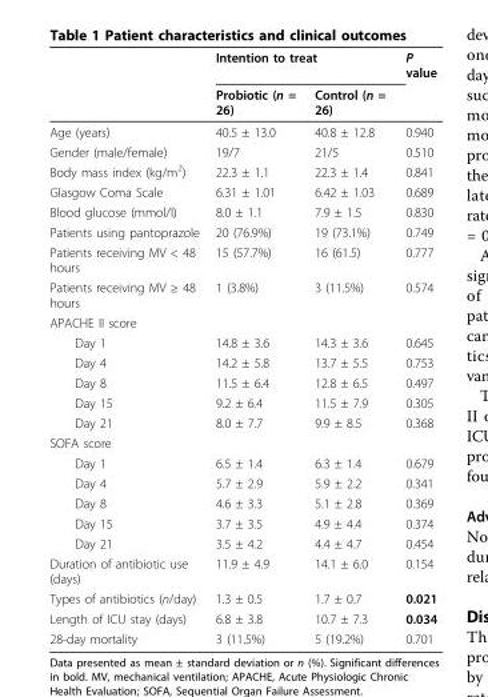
<table><thead><tr><td rowspan="2"></td><td colspan="2">Intention to treat</td><td rowspan="2">P value</td></tr><tr><td>Probiotic (n = 26)</td><td>Control (n = 26)</td></tr></thead><tbody><tr><td>Age (years)</td><td>40.5 ± 13.0</td><td>40.8 ± 12.8</td><td>0.940</td></tr><tr><td>Gender (male/female)</td><td>19/7</td><td>21/5</td><td>0.510</td></tr><tr><td>Body mass index (kg/m<sup>2</sup>)</td><td>22.3 ± 1.1</td><td>22.3 ± 1.4</td><td>0.841</td></tr><tr><td>Glasgow Coma Scale</td><td>6.31 ± 1.01</td><td>6.42 ± 1.03</td><td>0.689</td></tr><tr><td>Blood glucose (mmol/l)</td><td>8.0 ± 1.1</td><td>7.9 ± 1.5</td><td>0.830</td></tr><tr><td>Patients using pantoprazole</td><td>20 (76.9%)</td><td>19 (73.1%)</td><td>0.749</td></tr><tr><td>Patients receiving MV &lt; 48 hours</td><td>15 (57.7%)</td><td>16 (61.5)</td><td>0.777</td></tr><tr><td>Patients receiving MV ≥ 48 hours</td><td>1 (3.8%)</td><td>3 (11.5%)</td><td>0.574</td></tr><tr><td colspan="4">APACHE II score</td></tr><tr><td>Day 1</td><td>14.8 ± 3.6</td><td>14.3 ± 3.6</td><td>0.645</td></tr><tr><td>Day 4</td><td>14.2 ± 5.8</td><td>13.7 ± 5.5</td><td>0.753</td></tr><tr><td>Day 8</td><td>11.5 ± 6.4</td><td>12.8 ± 6.5</td><td>0.497</td></tr><tr><td>Day 15</td><td>9.2 ± 6.4</td><td>11.5 ± 7.9</td><td>0.305</td></tr><tr><td>Day 21</td><td>8.0 ± 7.7</td><td>9.9 ± 8.5</td><td>0.368</td></tr><tr><td colspan="4">SOFA score</td></tr><tr><td>Day 1</td><td>6.5 ± 1.4</td><td>6.3 ± 1.4</td><td>0.679</td></tr><tr><td>Day 4</td><td>5.7 ± 2.9</td><td>5.9 ± 2.2</td><td>0.341</td></tr><tr><td>Day 8</td><td>4.6 ± 3.3</td><td>5.1 ± 2.8</td><td>0.369</td></tr><tr><td>Day 15</td><td>3.7 ± 3.5</td><td>4.9 ± 4.4</td><td>0.374</td></tr><tr><td>Day 21</td><td>3.5 ± 4.2</td><td>4.4 ± 4.7</td><td>0.454</td></tr><tr><td>Duration of antibiotic use (days)</td><td>11.9 ± 4.9</td><td>14.1 ± 6.0</td><td>0.154</td></tr><tr><td>Types of antibiotics (n/day)</td><td>1.3 ± 0.5</td><td>1.7 ± 0.7</td><td>0.021</td></tr><tr><td>Length of ICU stay (days)</td><td>6.8 ± 3.8</td><td>10.7 ± 7.3</td><td>0.034</td></tr><tr><td>28-day mortality</td><td>3 (11.5%)</td><td>5 (19.2%)</td><td>0.701</td></tr></tbody></table>